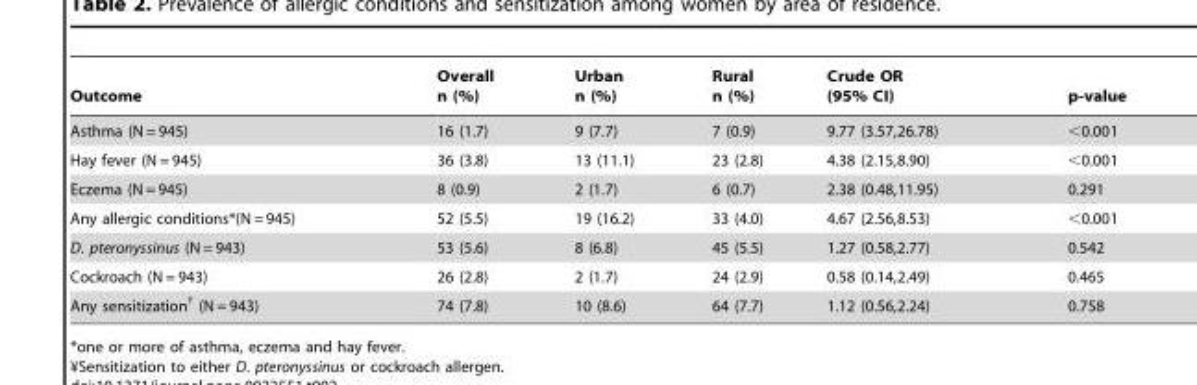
<table><thead><tr><td>Outcome</td><td>Overall n (%)</td><td>Urban n (%)</td><td>Rural n (%)</td><td>Crude OR (95% CI)</td><td>p-value</td></tr></thead><tbody><tr><td>Asthma (N = 945)</td><td>16 (1.7)</td><td>9 (7.7)</td><td>7 (0.9)</td><td>9.77 (3.57,26.78)</td><td>&lt;0.001</td></tr><tr><td>Hay fever (N = 945)</td><td>36 (3.8)</td><td>13 (11.1)</td><td>23 (2.8)</td><td>4.38 (2.15,8.90)</td><td>&lt;0.001</td></tr><tr><td>Eczema (N = 945)</td><td>8 (0.9)</td><td>2 (1.7)</td><td>6 (0.7)</td><td>2.38 (0.48,11.95)</td><td>0.291</td></tr><tr><td>Any allergic conditions*(N = 945)</td><td>52 (5.5)</td><td>19 (16.2)</td><td>33 (4.0)</td><td>4.67 (2.56,8.53)</td><td>&lt;0.001</td></tr><tr><td>D. pteronyssinus (N = 943)</td><td>53 (5.6)</td><td>8 (6.8)</td><td>45 (5.5)</td><td>1.27 (0.58,2.77)</td><td>0.542</td></tr><tr><td>Cockroach (N = 943)</td><td>26 (2.8)</td><td>2 (1.7)</td><td>24 (2.9)</td><td>0.58 (0.14,2.49)</td><td>0.465</td></tr><tr><td>Any sensitization<sup>†</sup> (N = 943)</td><td>74 (7.8)</td><td>10 (8.6)</td><td>64 (7.7)</td><td>1.12 (0.56,2.24)</td><td>0.758</td></tr></tbody></table>